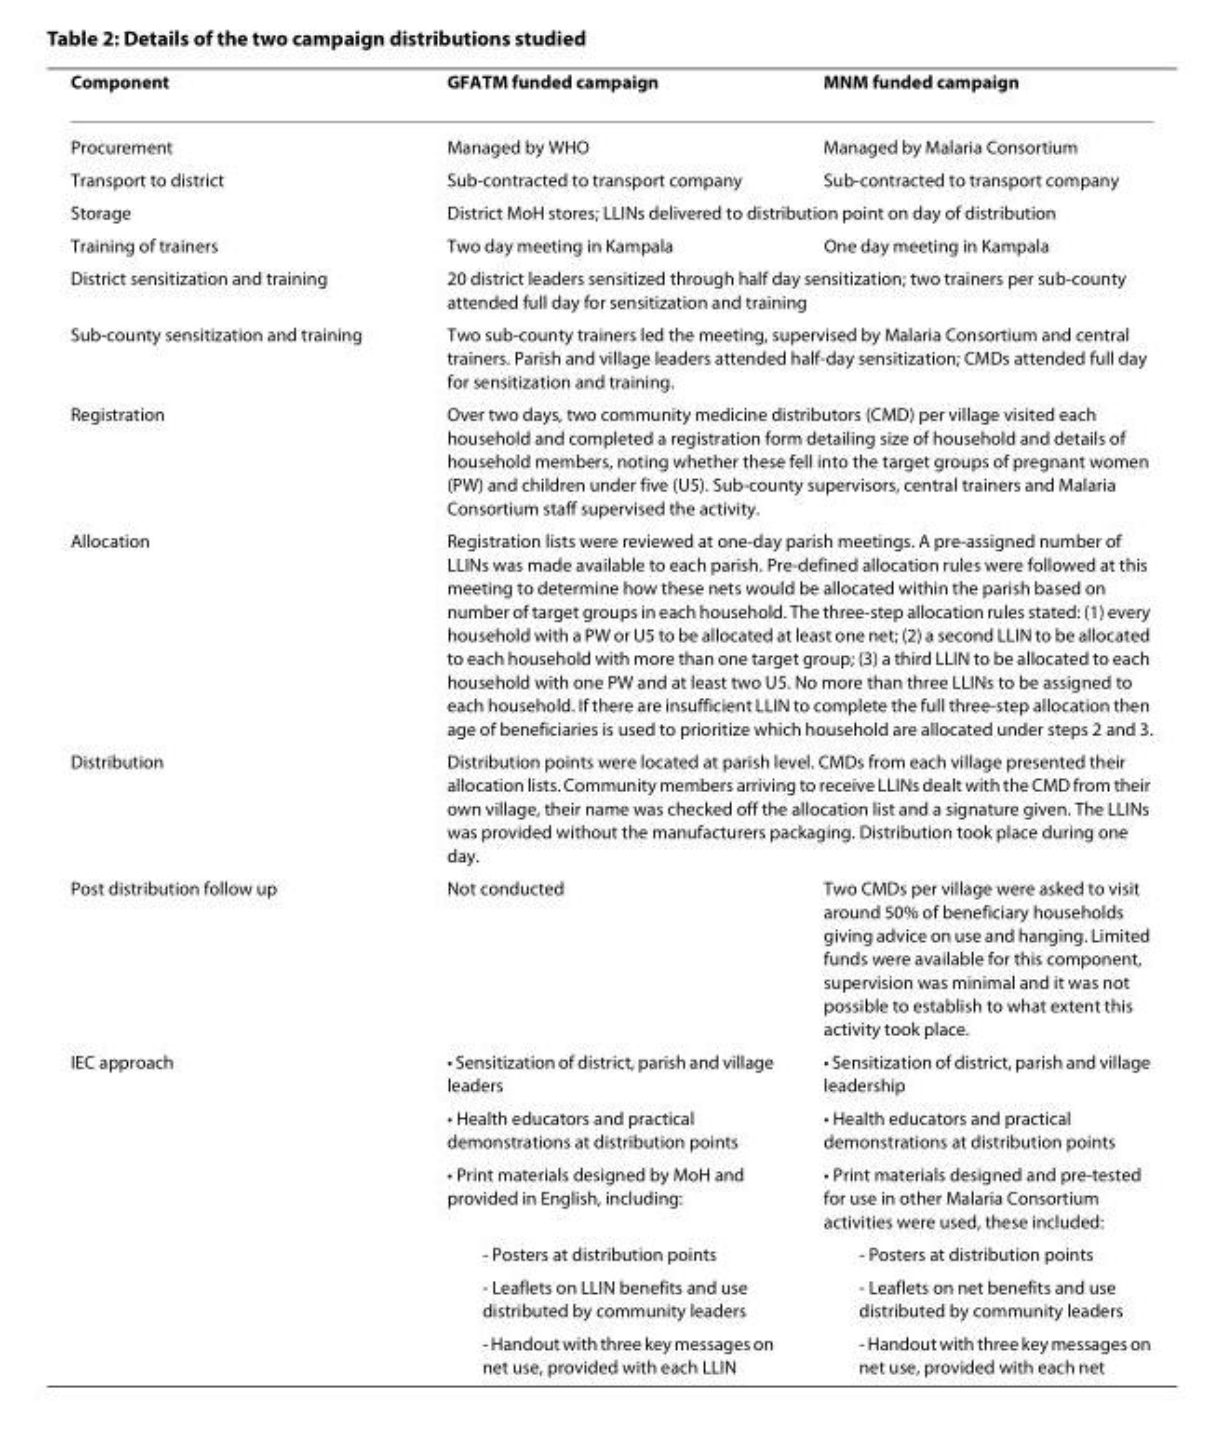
<table><thead><tr><td>Component</td><td>GFATM funded campaign</td><td>MNM funded campaign</td></tr></thead><tbody><tr><td>Procurement</td><td>Managed by WHO</td><td>Managed by Malaria Consortium</td></tr><tr><td>Transport to district</td><td>Sub-contracted to transport company</td><td>Sub-contracted to transport company</td></tr><tr><td>Storage</td><td colspan="2">District MoH stores; LLINs delivered to distribution point on day of distribution</td></tr><tr><td>Training of trainers</td><td>Two day meeting in Kampala</td><td>One day meeting in Kampala</td></tr><tr><td>District sensitization and training</td><td colspan="2">20 district leaders sensitized through half day sensitization; two trainers per sub-county attended full day for sensitization and training</td></tr><tr><td>Sub-county sensitization and training</td><td colspan="2">Two sub-county trainers led the meeting, supervised by Malaria Consortium and central trainers. Parish and village leaders attended half-day sensitization; CMDs attended full day for sensitization and training.</td></tr><tr><td>Registration</td><td colspan="2">Over two days, two community medicine distributors (CMD) per village visited each household and completed a registration form detailing size of household and details of household members, noting whether these fell into the target groups of pregnant women (PW) and children under five (U5). Sub-county supervisors, central trainers and Malaria Consortium staff supervised the activity.</td></tr><tr><td>Allocation</td><td colspan="2">Registration lists were reviewed at one-day parish meetings. A pre-assigned number of LLINs was made available to each parish. Pre-defined allocation rules were followed at this meeting to determine how these nets would be allocated within the parish based on number of target groups in each household. The three-step allocation rules stated: (1) every household with a PW or U5 to be allocated at least one net; (2) a second LLIN to be allocated to each household with more than one target group; (3) a third LLIN to be allocated to each household with one PW and at least two U5. No more than three LLINs to be assigned to each household. If there are insufficient LLIN to complete the full three-step allocation then age of beneficiaries is used to prioritize which household are allocated under steps 2 and 3.</td></tr><tr><td>Distribution</td><td colspan="2">Distribution points were located at parish level. CMDs from each village presented their allocation lists. Community members arriving to receive LLINs dealt with the CMD from their own village, their name was checked off the allocation list and a signature given. The LLINs was provided without the manufacturers packaging. Distribution took place during one day.</td></tr><tr><td>Post distribution follow up</td><td>Not conducted</td><td>Two CMDs per village were asked to visit around 50% of beneficiary households giving advice on use and hanging. Limited funds were available for this component, supervision was minimal and it was not possible to establish to what extent this activity took place.</td></tr><tr><td rowspan="6">IEC approach</td><td>• Sensitization of district, parish and village leaders</td><td>• Sensitization of district, parish and village leadership</td></tr><tr><td>• Health educators and practical demonstrations at distribution points</td><td>• Health educators and practical demonstrations at distribution points</td></tr><tr><td>• Print materials designed by MoH and provided in English, including:</td><td>• Print materials designed and pre-tested for use in other Malaria Consortium activities were used, these included:</td></tr><tr><td>- Posters at distribution points</td><td>- Posters at distribution points</td></tr><tr><td>- Leaflets on LLIN benefits and use distributed by community leaders</td><td>- Leaflets on net benefits and use distributed by community leaders</td></tr><tr><td>- Handout with three key messages on net use, provided with each LLIN</td><td>- Handout with three key messages on net use, provided with each net</td></tr></tbody></table>